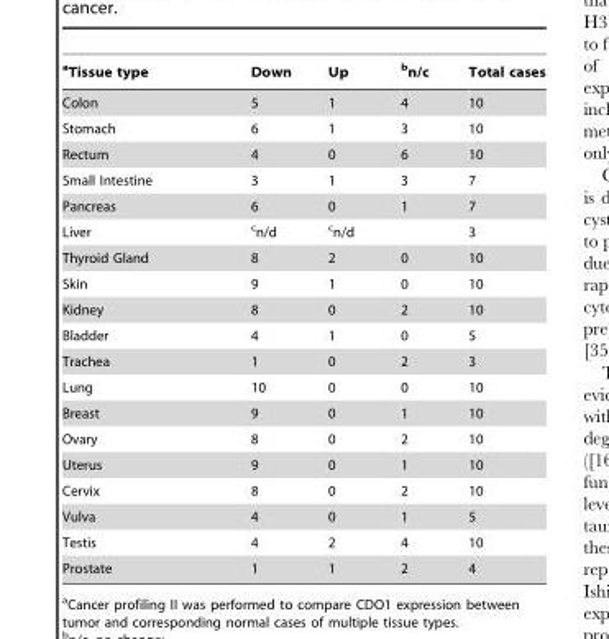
<table><thead><tr><td>aTissue type</td><td>Down</td><td>Up</td><td>bn/c</td><td>Total cases</td></tr></thead><tbody><tr><td>Colon</td><td>5</td><td>1</td><td>4</td><td>10</td></tr><tr><td>Stomach</td><td>6</td><td>1</td><td>3</td><td>10</td></tr><tr><td>Rectum</td><td>4</td><td>0</td><td>6</td><td>10</td></tr><tr><td>Small Intestine</td><td>3</td><td>1</td><td>3</td><td>7</td></tr><tr><td>Pancreas</td><td>6</td><td>0</td><td>1</td><td>7</td></tr><tr><td>Liver</td><td>cn/d</td><td>cn/d</td><td></td><td>3</td></tr><tr><td>Thyroid Gland</td><td>8</td><td>2</td><td>0</td><td>10</td></tr><tr><td>Skin</td><td>9</td><td>1</td><td>0</td><td>10</td></tr><tr><td>Kidney</td><td>8</td><td>0</td><td>2</td><td>10</td></tr><tr><td>Bladder</td><td>4</td><td>1</td><td>0</td><td>5</td></tr><tr><td>Trachea</td><td>1</td><td>0</td><td>2</td><td>3</td></tr><tr><td>Lung</td><td>10</td><td>0</td><td>0</td><td>10</td></tr><tr><td>Breast</td><td>9</td><td>0</td><td>1</td><td>10</td></tr><tr><td>Ovary</td><td>8</td><td>0</td><td>2</td><td>10</td></tr><tr><td>Uterus</td><td>9</td><td>0</td><td>1</td><td>10</td></tr><tr><td>Cervix</td><td>8</td><td>0</td><td>2</td><td>10</td></tr><tr><td>Vulva</td><td>4</td><td>0</td><td>1</td><td>5</td></tr><tr><td>Testis</td><td>4</td><td>2</td><td>4</td><td>10</td></tr><tr><td>Prostate</td><td>1</td><td>1</td><td>2</td><td>4</td></tr></tbody></table>